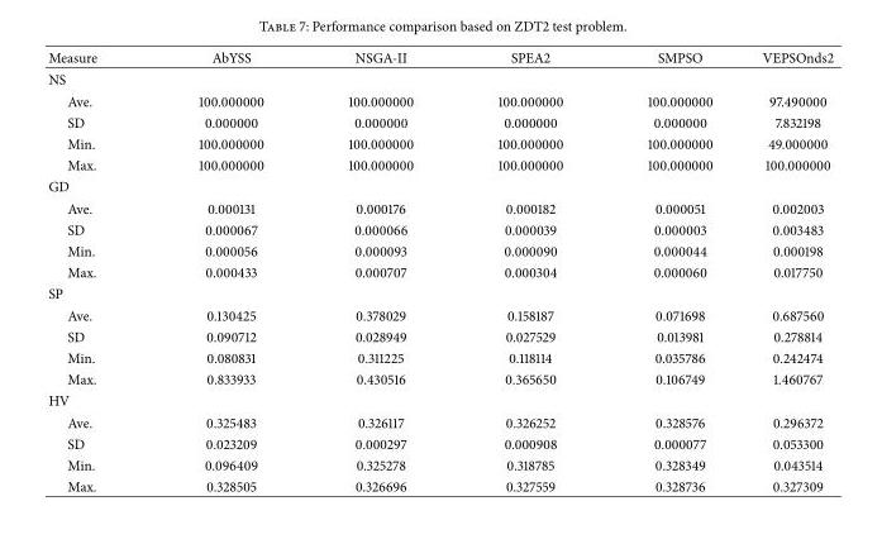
<table><thead><tr><td>Measure</td><td>AbYSS</td><td>NSGA-II</td><td>SPEA2</td><td>SMPSO</td><td>VEPSOnds2</td></tr></thead><tbody><tr><td colspan="6">NS</td></tr><tr><td>Ave.</td><td>100.000000</td><td>100.000000</td><td>100.000000</td><td>100.000000</td><td>97.490000</td></tr><tr><td>SD</td><td>0.000000</td><td>0.000000</td><td>0.000000</td><td>0.000000</td><td>7.832198</td></tr><tr><td>Min.</td><td>100.000000</td><td>100.000000</td><td>100.000000</td><td>100.000000</td><td>49.000000</td></tr><tr><td>Max.</td><td>100.000000</td><td>100.000000</td><td>100.000000</td><td>100.000000</td><td>100.000000</td></tr><tr><td colspan="6">GD</td></tr><tr><td>Ave.</td><td>0.000131</td><td>0.000176</td><td>0.000182</td><td>0.000051</td><td>0.002003</td></tr><tr><td>SD</td><td>0.000067</td><td>0.000066</td><td>0.000039</td><td>0.000003</td><td>0.003483</td></tr><tr><td>Min.</td><td>0.000056</td><td>0.000093</td><td>0.000090</td><td>0.000044</td><td>0.000198</td></tr><tr><td>Max.</td><td>0.000433</td><td>0.000707</td><td>0.000304</td><td>0.000060</td><td>0.017750</td></tr><tr><td colspan="6">SP</td></tr><tr><td>Ave.</td><td>0.130425</td><td>0.378029</td><td>0.158187</td><td>0.071698</td><td>0.687560</td></tr><tr><td>SD</td><td>0.090712</td><td>0.028949</td><td>0.027529</td><td>0.013981</td><td>0.278814</td></tr><tr><td>Min.</td><td>0.080831</td><td>0.311225</td><td>0.118114</td><td>0.035786</td><td>0.242474</td></tr><tr><td>Max.</td><td>0.833933</td><td>0.430516</td><td>0.365650</td><td>0.106749</td><td>1.460767</td></tr><tr><td colspan="6">HV</td></tr><tr><td>Ave.</td><td>0.325483</td><td>0.326117</td><td>0.326252</td><td>0.328576</td><td>0.296372</td></tr><tr><td>SD</td><td>0.023209</td><td>0.000297</td><td>0.000908</td><td>0.000077</td><td>0.053300</td></tr><tr><td>Min.</td><td>0.096409</td><td>0.325278</td><td>0.318785</td><td>0.328349</td><td>0.043514</td></tr><tr><td>Max.</td><td>0.328505</td><td>0.326696</td><td>0.327559</td><td>0.328736</td><td>0.327309</td></tr></tbody></table>